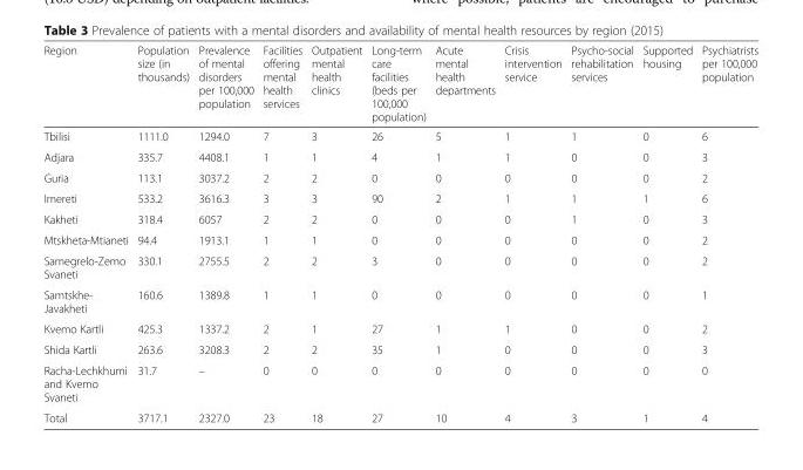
<table><thead><tr><td>Region</td><td>Population size (in thousands)</td><td>Prevalence of mental disorders per 100,000 population</td><td>Facilities offering mental health services</td><td>Outpatient mental health clinics</td><td>Long-term care facilities (beds per 100,000 population)</td><td>Acute mental health departments</td><td>Crisis intervention service</td><td>Psycho-social rehabilitation services</td><td>Supported housing</td><td>Psychiatrists per 100,000 population</td></tr></thead><tbody><tr><td>Tbilisi</td><td>1111.0</td><td>1294.0</td><td>7</td><td>3</td><td>26</td><td>5</td><td>1</td><td>1</td><td>0</td><td>6</td></tr><tr><td>Adjara</td><td>335.7</td><td>4408.1</td><td>1</td><td>1</td><td>4</td><td>1</td><td>1</td><td>0</td><td>0</td><td>3</td></tr><tr><td>Guria</td><td>113.1</td><td>3037.2</td><td>2</td><td>2</td><td>0</td><td>0</td><td>0</td><td>0</td><td>0</td><td>2</td></tr><tr><td>Imereti</td><td>533.2</td><td>3616.3</td><td>3</td><td>3</td><td>90</td><td>2</td><td>1</td><td>1</td><td>1</td><td>6</td></tr><tr><td>Kakheti</td><td>318.4</td><td>6057</td><td>2</td><td>2</td><td>0</td><td>0</td><td>0</td><td>1</td><td>0</td><td>3</td></tr><tr><td>Mtskheta-Mtianeti</td><td>94.4</td><td>1913.1</td><td>1</td><td>1</td><td>0</td><td>0</td><td>0</td><td>0</td><td>0</td><td>2</td></tr><tr><td>Samegrelo-Zemo Svaneti</td><td>330.1</td><td>2755.5</td><td>2</td><td>2</td><td>3</td><td>0</td><td>0</td><td>0</td><td>0</td><td>2</td></tr><tr><td>Samtskhe- Javakheti</td><td>160.6</td><td>1389.8</td><td>1</td><td>1</td><td>0</td><td>0</td><td>0</td><td>0</td><td>0</td><td>1</td></tr><tr><td>Kvemo Kartli</td><td>425.3</td><td>1337.2</td><td>2</td><td>1</td><td>27</td><td>1</td><td>1</td><td>0</td><td>0</td><td>2</td></tr><tr><td>Shida Kartli</td><td>263.6</td><td>3208.3</td><td>2</td><td>2</td><td>35</td><td>1</td><td>0</td><td>0</td><td>0</td><td>3</td></tr><tr><td>Racha-Lechkhumi and Kvemo Svaneti</td><td>31.7</td><td>–</td><td>0</td><td>0</td><td>0</td><td>0</td><td>0</td><td>0</td><td>0</td><td>0</td></tr><tr><td>Total</td><td>3717.1</td><td>2327.0</td><td>23</td><td>18</td><td>27</td><td>10</td><td>4</td><td>3</td><td>1</td><td>4</td></tr></tbody></table>